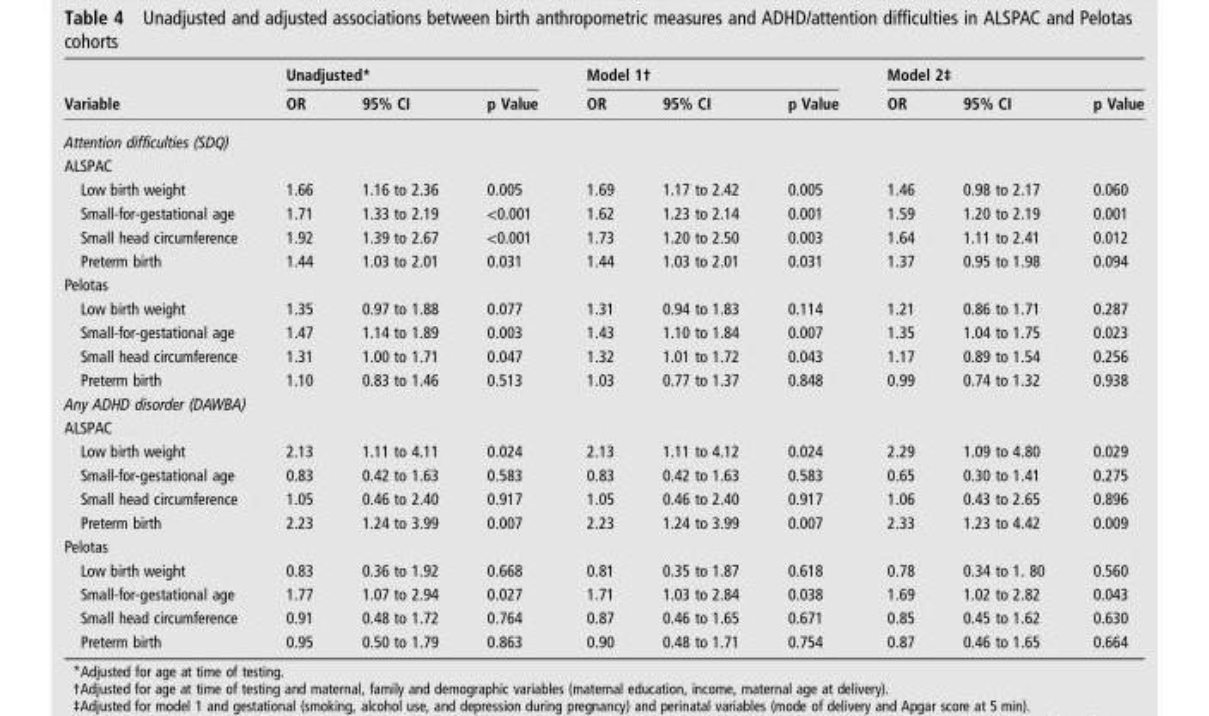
<table><thead><tr><td rowspan="2">Variable</td><td colspan="3">Unadjusted*</td><td colspan="3">Model 1†</td><td colspan="3">Model 2‡</td></tr><tr><td>OR</td><td>95% CI</td><td>p Value</td><td>OR</td><td>95% CI</td><td>p Value</td><td>OR</td><td>95% CI</td><td>p Value</td></tr></thead><tbody><tr><td colspan="10">Attention difficulties (SDQ)</td></tr><tr><td colspan="10">ALSPAC</td></tr><tr><td>Low birth weight</td><td>1.66</td><td>1.16 to 2.36</td><td>0.005</td><td>1.69</td><td>1.17 to 2.42</td><td>0.005</td><td>1.46</td><td>0.98 to 2.17</td><td>0.060</td></tr><tr><td>Small-for-gestational age</td><td>1.71</td><td>1.33 to 2.19</td><td>&lt;0.001</td><td>1.62</td><td>1.23 to 2.14</td><td>0.001</td><td>1.59</td><td>1.20 to 2.19</td><td>0.001</td></tr><tr><td>Small head circumference</td><td>1.92</td><td>1.39 to 2.67</td><td>&lt;0.001</td><td>1.73</td><td>1.20 to 2.50</td><td>0.003</td><td>1.64</td><td>1.11 to 2.41</td><td>0.012</td></tr><tr><td>Preterm birth</td><td>1.44</td><td>1.03 to 2.01</td><td>0.031</td><td>1.44</td><td>1.03 to 2.01</td><td>0.031</td><td>1.37</td><td>0.95 to 1.98</td><td>0.094</td></tr><tr><td colspan="10">Pelotas</td></tr><tr><td>Low birth weight</td><td>1.35</td><td>0.97 to 1.88</td><td>0.077</td><td>1.31</td><td>0.94 to 1.83</td><td>0.114</td><td>1.21</td><td>0.86 to 1.71</td><td>0.287</td></tr><tr><td>Small-for-gestational age</td><td>1.47</td><td>1.14 to 1.89</td><td>0.003</td><td>1.43</td><td>1.10 to 1.84</td><td>0.007</td><td>1.35</td><td>1.04 to 1.75</td><td>0.023</td></tr><tr><td>Small head circumference</td><td>1.31</td><td>1.00 to 1.71</td><td>0.047</td><td>1.32</td><td>1.01 to 1.72</td><td>0.043</td><td>1.17</td><td>0.89 to 1.54</td><td>0.256</td></tr><tr><td>Preterm birth</td><td>1.10</td><td>0.83 to 1.46</td><td>0.513</td><td>1.03</td><td>0.77 to 1.37</td><td>0.848</td><td>0.99</td><td>0.74 to 1.32</td><td>0.938</td></tr><tr><td colspan="10">Any ADHD disorder (DAWBA)</td></tr><tr><td colspan="10">ALSPAC</td></tr><tr><td>Low birth weight</td><td>2.13</td><td>1.11 to 4.11</td><td>0.024</td><td>2.13</td><td>1.11 to 4.12</td><td>0.024</td><td>2.29</td><td>1.09 to 4.80</td><td>0.029</td></tr><tr><td>Small-for-gestational age</td><td>0.83</td><td>0.42 to 1.63</td><td>0.583</td><td>0.83</td><td>0.42 to 1.63</td><td>0.583</td><td>0.65</td><td>0.30 to 1.41</td><td>0.275</td></tr><tr><td>Small head circumference</td><td>1.05</td><td>0.46 to 2.40</td><td>0.917</td><td>1.05</td><td>0.46 to 2.40</td><td>0.917</td><td>1.06</td><td>0.43 to 2.65</td><td>0.896</td></tr><tr><td>Preterm birth</td><td>2.23</td><td>1.24 to 3.99</td><td>0.007</td><td>2.23</td><td>1.24 to 3.99</td><td>0.007</td><td>2.33</td><td>1.23 to 4.42</td><td>0.009</td></tr><tr><td colspan="10">Pelotas</td></tr><tr><td>Low birth weight</td><td>0.83</td><td>0.36 to 1.92</td><td>0.668</td><td>0.81</td><td>0.35 to 1.87</td><td>0.618</td><td>0.78</td><td>0.34 to 1. 80</td><td>0.560</td></tr><tr><td>Small-for-gestational age</td><td>1.77</td><td>1.07 to 2.94</td><td>0.027</td><td>1.71</td><td>1.03 to 2.84</td><td>0.038</td><td>1.69</td><td>1.02 to 2.82</td><td>0.043</td></tr><tr><td>Small head circumference</td><td>0.91</td><td>0.48 to 1.72</td><td>0.764</td><td>0.87</td><td>0.46 to 1.65</td><td>0.671</td><td>0.85</td><td>0.45 to 1.62</td><td>0.630</td></tr><tr><td>Preterm birth</td><td>0.95</td><td>0.50 to 1.79</td><td>0.863</td><td>0.90</td><td>0.48 to 1.71</td><td>0.754</td><td>0.87</td><td>0.46 to 1.65</td><td>0.664</td></tr></tbody></table>